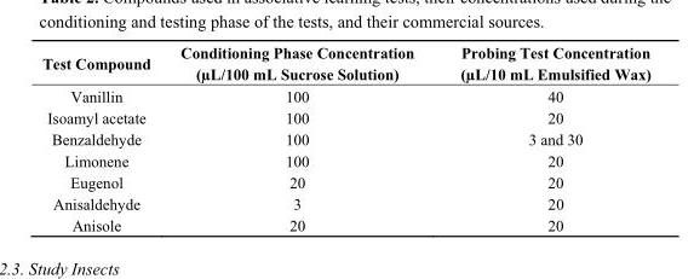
<table><thead><tr><td>Test Compound</td><td>Conditioning Phase Concentration (µL/100 mL Sucrose Solution)</td><td>Probing Test Concentration (µL/10 mL Emulsified Wax)</td></tr></thead><tbody><tr><td>Vanillin</td><td>100</td><td>40</td></tr><tr><td>Isoamyl acetate</td><td>100</td><td>20</td></tr><tr><td>Benzaldehyde</td><td>100</td><td>3 and 30</td></tr><tr><td>Limonene</td><td>100</td><td>20</td></tr><tr><td>Eugenol</td><td>20</td><td>20</td></tr><tr><td>Anisaldehyde</td><td>3</td><td>20</td></tr><tr><td>Anisole</td><td>20</td><td>20</td></tr></tbody></table>